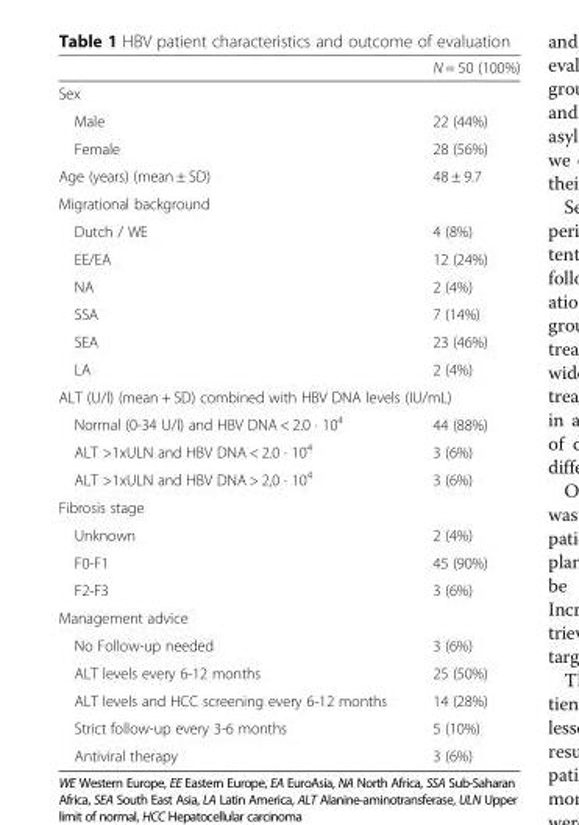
<table><thead><tr><td></td><td>N = 50 (100%)</td></tr></thead><tbody><tr><td colspan="2">Sex</td></tr><tr><td>Male</td><td>22 (44%)</td></tr><tr><td>Female</td><td>28 (56%)</td></tr><tr><td>Age (years) (mean ± SD)</td><td>48 ± 9.7</td></tr><tr><td colspan="2">Migrational background</td></tr><tr><td>Dutch / WE</td><td>4 (8%)</td></tr><tr><td>EE/EA</td><td>12 (24%)</td></tr><tr><td>NA</td><td>2 (4%)</td></tr><tr><td>SSA</td><td>7 (14%)</td></tr><tr><td>SEA</td><td>23 (46%)</td></tr><tr><td>LA</td><td>2 (4%)</td></tr><tr><td colspan="2">ALT (U/l) (mean + SD) combined with HBV DNA levels (IU/mL)</td></tr><tr><td>Normal (0-34 U/l) and HBV DNA &lt; 2.0 · 10<sup>4</sup></td><td>44 (88%)</td></tr><tr><td>ALT &gt;1xULN and HBV DNA &lt; 2.0 · 10<sup>4</sup></td><td>3 (6%)</td></tr><tr><td>ALT &gt;1xULN and HBV DNA &gt; 2,0 · 10<sup>4</sup></td><td>3 (6%)</td></tr><tr><td colspan="2">Fibrosis stage</td></tr><tr><td>Unknown</td><td>2 (4%)</td></tr><tr><td>F0-F1</td><td>45 (90%)</td></tr><tr><td>F2-F3</td><td>3 (6%)</td></tr><tr><td colspan="2">Management advice</td></tr><tr><td>No Follow-up needed</td><td>3 (6%)</td></tr><tr><td>ALT levels every 6-12 months</td><td>25 (50%)</td></tr><tr><td>ALT levels and HCC screening every 6-12 months</td><td>14 (28%)</td></tr><tr><td>Strict follow-up every 3-6 months</td><td>5 (10%)</td></tr><tr><td>Antiviral therapy</td><td>3 (6%)</td></tr></tbody></table>